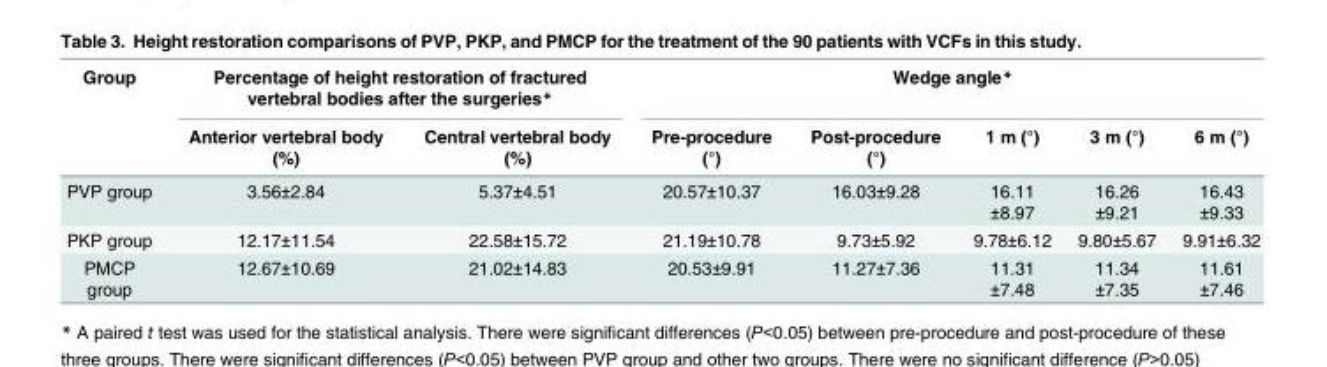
<table><thead><tr><td rowspan="2">Group</td><td colspan="2">Percentage of height restoration of fractured vertebral bodies after the surgeries*</td><td colspan="5">Wedge angle*</td></tr><tr><td>Anterior vertebral body (%)</td><td>Central vertebral body (%)</td><td>Pre-procedure (°)</td><td>Post-procedure (°)</td><td>1 m (°)</td><td>3 m (°)</td><td>6 m (°)</td></tr></thead><tbody><tr><td>PVP group</td><td>3.56±2.84</td><td>5.37±4.51</td><td>20.57±10.37</td><td>16.03±9.28</td><td>16.11 ±8.97</td><td>16.26 ±9.21</td><td>16.43 ±9.33</td></tr><tr><td>PKP group</td><td>12.17±11.54</td><td>22.58±15.72</td><td>21.19±10.78</td><td>9.73±5.92</td><td>9.78±6.12</td><td>9.80±5.67</td><td>9.91±6.32</td></tr><tr><td>PMCP group</td><td>12.67±10.69</td><td>21.02±14.83</td><td>20.53±9.91</td><td>11.27±7.36</td><td>11.31 ±7.48</td><td>11.34 ±7.35</td><td>11.61 ±7.46</td></tr></tbody></table>